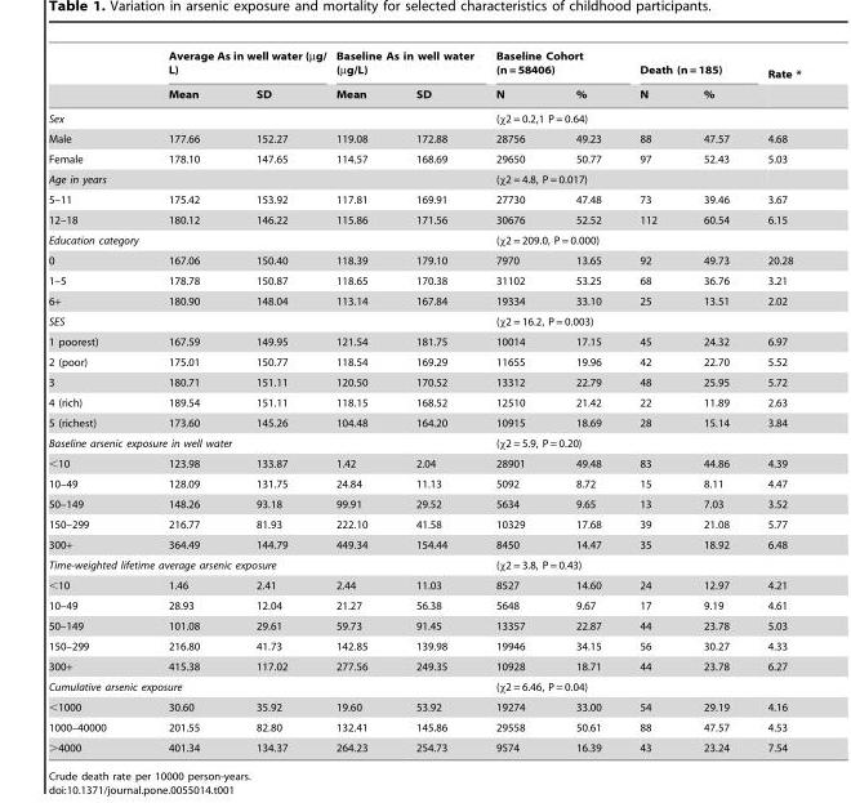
<table><thead><tr><td rowspan="2"></td><td colspan="2">Average As in well water (µg/ L)</td><td colspan="2">Baseline As in well water (µg/L)</td><td colspan="2">Baseline Cohort (n = 58406)</td><td colspan="2">Death (n = 185)</td><td rowspan="2">Rate *</td></tr><tr><td>Mean</td><td>SD</td><td>Mean</td><td>SD</td><td>N</td><td>%</td><td>N</td><td>%</td></tr></thead><tbody><tr><td colspan="5">Sex</td><td colspan="4">(χ2 = 0.2,1 P = 0.64)</td><td></td></tr><tr><td>Male</td><td>177.66</td><td>152.27</td><td>119.08</td><td>172.88</td><td>28756</td><td>49.23</td><td>88</td><td>47.57</td><td>4.68</td></tr><tr><td>Female</td><td>178.10</td><td>147.65</td><td>114.57</td><td>168.69</td><td>29650</td><td>50.77</td><td>97</td><td>52.43</td><td>5.03</td></tr><tr><td colspan="5">Age in years</td><td colspan="4">(χ2 = 4.8, P = 0.017)</td><td></td></tr><tr><td>5–11</td><td>175.42</td><td>153.92</td><td>117.81</td><td>169.91</td><td>27730</td><td>47.48</td><td>73</td><td>39.46</td><td>3.67</td></tr><tr><td>12–18</td><td>180.12</td><td>146.22</td><td>115.86</td><td>171.56</td><td>30676</td><td>52.52</td><td>112</td><td>60.54</td><td>6.15</td></tr><tr><td colspan="5">Education category</td><td colspan="4">(χ2 = 209.0, P = 0.000)</td><td></td></tr><tr><td>0</td><td>167.06</td><td>150.40</td><td>118.39</td><td>179.10</td><td>7970</td><td>13.65</td><td>92</td><td>49.73</td><td>20.28</td></tr><tr><td>1–5</td><td>178.78</td><td>150.87</td><td>118.65</td><td>170.38</td><td>31102</td><td>53.25</td><td>68</td><td>36.76</td><td>3.21</td></tr><tr><td>6+</td><td>180.90</td><td>148.04</td><td>113.14</td><td>167.84</td><td>19334</td><td>33.10</td><td>25</td><td>13.51</td><td>2.02</td></tr><tr><td colspan="5">SES</td><td colspan="4">(χ2 = 16.2, P = 0.003)</td><td></td></tr><tr><td>1 poorest)</td><td>167.59</td><td>149.95</td><td>121.54</td><td>181.75</td><td>10014</td><td>17.15</td><td>45</td><td>24.32</td><td>6.97</td></tr><tr><td>2 (poor)</td><td>175.01</td><td>150.77</td><td>118.54</td><td>169.29</td><td>11655</td><td>19.96</td><td>42</td><td>22.70</td><td>5.52</td></tr><tr><td>3</td><td>180.71</td><td>151.11</td><td>120.50</td><td>170.52</td><td>13312</td><td>22.79</td><td>48</td><td>25.95</td><td>5.72</td></tr><tr><td>4 (rich)</td><td>189.54</td><td>151.11</td><td>118.15</td><td>168.52</td><td>12510</td><td>21.42</td><td>22</td><td>11.89</td><td>2.63</td></tr><tr><td>5 (richest)</td><td>173.60</td><td>145.26</td><td>104.48</td><td>164.20</td><td>10915</td><td>18.69</td><td>28</td><td>15.14</td><td>3.84</td></tr><tr><td colspan="5">Baseline arsenic exposure in well water</td><td colspan="4">(χ2 = 5.9, P = 0.20)</td><td></td></tr><tr><td>&lt;10</td><td>123.98</td><td>133.87</td><td>1.42</td><td>2.04</td><td>28901</td><td>49.48</td><td>83</td><td>44.86</td><td>4.39</td></tr><tr><td>10–49</td><td>128.09</td><td>131.75</td><td>24.84</td><td>11.13</td><td>5092</td><td>8.72</td><td>15</td><td>8.11</td><td>4.47</td></tr><tr><td>50–149</td><td>148.26</td><td>93.18</td><td>99.91</td><td>29.52</td><td>5634</td><td>9.65</td><td>13</td><td>7.03</td><td>3.52</td></tr><tr><td>150–299</td><td>216.77</td><td>81.93</td><td>222.10</td><td>41.58</td><td>10329</td><td>17.68</td><td>39</td><td>21.08</td><td>5.77</td></tr><tr><td>300+</td><td>364.49</td><td>144.79</td><td>449.34</td><td>154.44</td><td>8450</td><td>14.47</td><td>35</td><td>18.92</td><td>6.48</td></tr><tr><td colspan="5">Time-weighted lifetime average arsenic exposure</td><td colspan="4">(χ2 = 3.8, P = 0.43)</td><td></td></tr><tr><td>&lt;10</td><td>1.46</td><td>2.41</td><td>2.44</td><td>11.03</td><td>8527</td><td>14.60</td><td>24</td><td>12.97</td><td>4.21</td></tr><tr><td>10–49</td><td>28.93</td><td>12.04</td><td>21.27</td><td>56.38</td><td>5648</td><td>9.67</td><td>17</td><td>9.19</td><td>4.61</td></tr><tr><td>50–149</td><td>101.08</td><td>29.61</td><td>59.73</td><td>91.45</td><td>13357</td><td>22.87</td><td>44</td><td>23.78</td><td>5.03</td></tr><tr><td>150–299</td><td>216.80</td><td>41.73</td><td>142.85</td><td>139.98</td><td>19946</td><td>34.15</td><td>56</td><td>30.27</td><td>4.33</td></tr><tr><td>300+</td><td>415.38</td><td>117.02</td><td>277.56</td><td>249.35</td><td>10928</td><td>18.71</td><td>44</td><td>23.78</td><td>6.27</td></tr><tr><td colspan="5">Cumulative arsenic exposure</td><td colspan="4">(χ2 = 6.46, P = 0.04)</td><td></td></tr><tr><td>&lt;1000</td><td>30.60</td><td>35.92</td><td>19.60</td><td>53.92</td><td>19274</td><td>33.00</td><td>54</td><td>29.19</td><td>4.16</td></tr><tr><td>1000–40000</td><td>201.55</td><td>82.80</td><td>132.41</td><td>145.86</td><td>29558</td><td>50.61</td><td>88</td><td>47.57</td><td>4.53</td></tr><tr><td>&gt;4000</td><td>401.34</td><td>134.37</td><td>264.23</td><td>254.73</td><td>9574</td><td>16.39</td><td>43</td><td>23.24</td><td>7.54</td></tr></tbody></table>